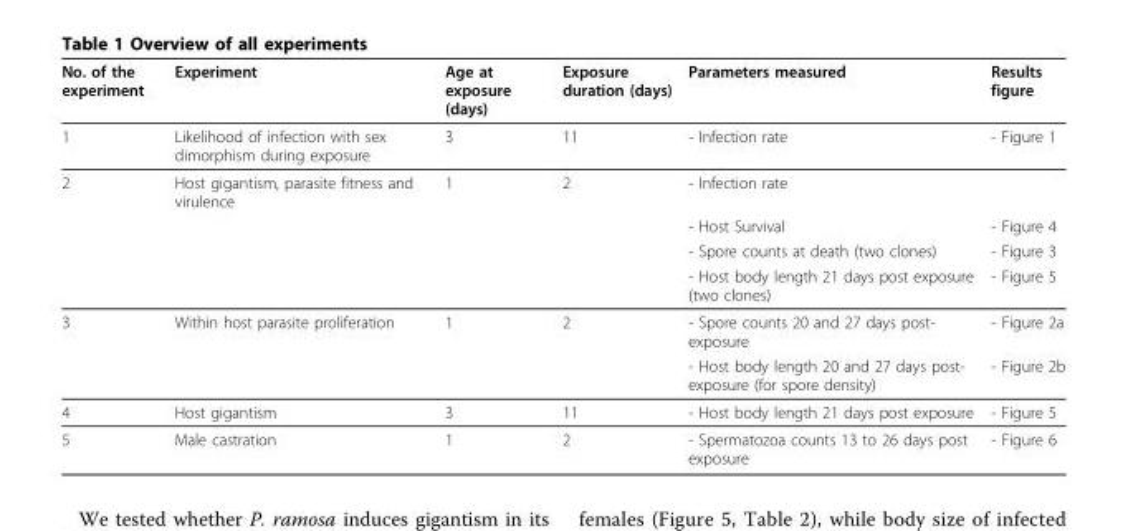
<table><thead><tr><td>No. of the experiment</td><td>Experiment</td><td>Age at exposure (days)</td><td>Exposure duration (days)</td><td>Parameters measured</td><td>Results figure</td></tr></thead><tbody><tr><td>1</td><td>Likelihood of infection with sex dimorphism during exposure</td><td>3</td><td>11</td><td>- Infection rate</td><td>- Figure 1</td></tr><tr><td rowspan="4">2</td><td>Host gigantism, parasite fitness and virulence</td><td>1</td><td>2</td><td>- Infection rate</td><td></td></tr><tr><td></td><td></td><td></td><td>- Host Survival</td><td>- Figure 4</td></tr><tr><td></td><td></td><td></td><td>- Spore counts at death (two clones)</td><td>- Figure 3</td></tr><tr><td></td><td></td><td></td><td>- Host body length 21 days post exposure (two clones)</td><td>- Figure 5</td></tr><tr><td rowspan="2">3</td><td>Within host parasite proliferation</td><td>1</td><td>2</td><td>- Spore counts 20 and 27 days post- exposure</td><td>- Figure 2a</td></tr><tr><td></td><td></td><td></td><td>- Host body length 20 and 27 days post- exposure (for spore density)</td><td>- Figure 2b</td></tr><tr><td>4</td><td>Host gigantism</td><td>3</td><td>11</td><td>- Host body length 21 days post exposure</td><td>- Figure 5</td></tr><tr><td>5</td><td>Male castration</td><td>1</td><td>2</td><td>- Spermatozoa counts 13 to 26 days post exposure</td><td>- Figure 6</td></tr></tbody></table>